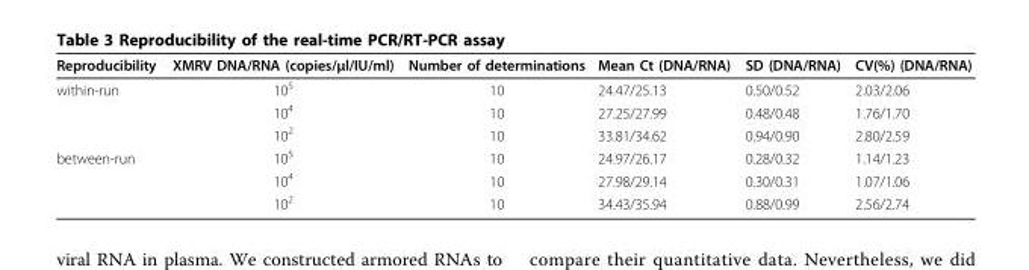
<table><thead><tr><td>Reproducibility</td><td>XMRV DNA/RNA (copies/μl/IU/ml)</td><td>Number of determinations</td><td>Mean Ct (DNA/RNA)</td><td>SD (DNA/RNA)</td><td>CV(%) (DNA/RNA)</td></tr></thead><tbody><tr><td rowspan="3">within-run</td><td>10<sup>5</sup></td><td>10</td><td>24.47/25.13</td><td>0.50/0.52</td><td>2.03/2.06</td></tr><tr><td>10<sup>4</sup></td><td>10</td><td>27.25/27.99</td><td>0.48/0.48</td><td>1.76/1.70</td></tr><tr><td>10<sup>2</sup></td><td>10</td><td>33.81/34.62</td><td>0.94/0.90</td><td>2.80/2.59</td></tr><tr><td rowspan="3">between-run</td><td>10<sup>5</sup></td><td>10</td><td>24.97/26.17</td><td>0.28/0.32</td><td>1.14/1.23</td></tr><tr><td>10<sup>4</sup></td><td>10</td><td>27.98/29.14</td><td>0.30/0.31</td><td>1.07/1.06</td></tr><tr><td>10<sup>2</sup></td><td>10</td><td>34.43/35.94</td><td>0.88/0.99</td><td>2.56/2.74</td></tr></tbody></table>